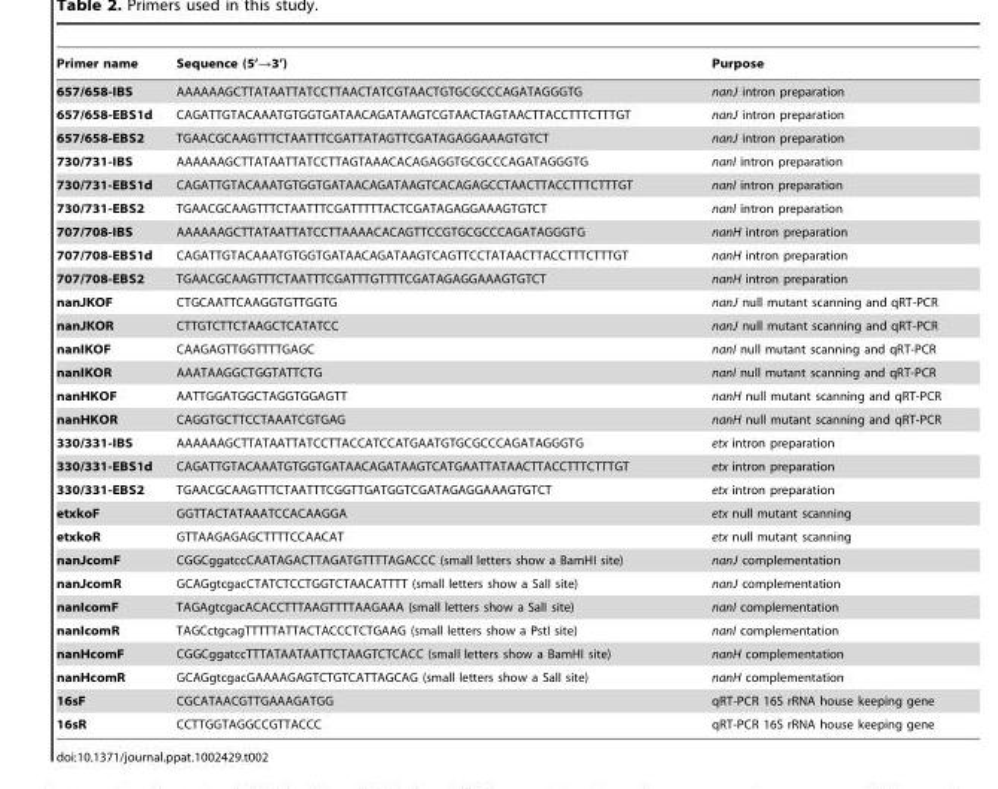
<table><thead><tr><td>Primer name</td><td>Sequence (5’→3’)</td><td>Purpose</td></tr></thead><tbody><tr><td>657/658-IBS</td><td>AAAAAAGCTTATAATTATCCTTAACTATCGTAACTGTGCGCCCAGATAGGGTG</td><td>nanJ intron preparation</td></tr><tr><td>657/658-EBS1d</td><td>CAGATTGTACAAATGTGGTGATAACAGATAAGTCGTAACTAGTAACTTACCTTTCTTTGT</td><td>nanJ intron preparation</td></tr><tr><td>657/658-EBS2</td><td>TGAACGCAAGTTTCTAATTTCGATTATAGTTCGATAGAGGAAAGTGTCT</td><td>nanJ intron preparation</td></tr><tr><td>730/731-IBS</td><td>AAAAAAGCTTATAATTATCCTTAGTAAACACAGAGGTGCGCCCAGATAGGGTG</td><td>nanI intron preparation</td></tr><tr><td>730/731-EBS1d</td><td>CAGATTGTACAAATGTGGTGATAACAGATAAGTCACAGAGCCTAACTTACCTTTCTTTGT</td><td>nanI intron preparation</td></tr><tr><td>730/731-EBS2</td><td>TGAACGCAAGTTTCTAATTTCGATTTTTACTCGATAGAGGAAAGTGTCT</td><td>nanI intron preparation</td></tr><tr><td>707/708-IBS</td><td>AAAAAAGCTTATAATTATCCTTAAAACACAGTTCCGTGCGCCCAGATAGGGTG</td><td>nanH intron preparation</td></tr><tr><td>707/708-EBS1d</td><td>CAGATTGTACAAATGTGGTGATAACAGATAAGTCAGTTCCTATAACTTACCTTTCTTTGT</td><td>nanH intron preparation</td></tr><tr><td>707/708-EBS2</td><td>TGAACGCAAGTTTCTAATTTCGATTTGTTTTCGATAGAGGAAAGTGTCT</td><td>nanH intron preparation</td></tr><tr><td>nanJKOF</td><td>CTGCAATTCAAGGTGTTGGTG</td><td>nanJ null mutant scanning and qRT-PCR</td></tr><tr><td>nanJKOR</td><td>CTTGTCTTCTAAGCTCATATCC</td><td>nanJ null mutant scanning and qRT-PCR</td></tr><tr><td>nanIKOF</td><td>CAAGAGTTGGTTTTGAGC</td><td>nanI null mutant scanning and qRT-PCR</td></tr><tr><td>nanIKOR</td><td>AAATAAGGCTGGTATTCTG</td><td>nanI null mutant scanning and qRT-PCR</td></tr><tr><td>nanHKOF</td><td>AATTGGATGGCTAGGTGGAGTT</td><td>nanH null mutant scanning and qRT-PCR</td></tr><tr><td>nanHKOR</td><td>CAGGTGCTTCCTAAATCGTGAG</td><td>nanH null mutant scanning and qRT-PCR</td></tr><tr><td>330/331-IBS</td><td>AAAAAAGCTTATAATTATCCTTACCATCCATGAATGTGCGCCCAGATAGGGTG</td><td>etx intron preparation</td></tr><tr><td>330/331-EBS1d</td><td>CAGATTGTACAAATGTGGTGATAACAGATAAGTCATGAATTATAACTTACCTTTCTTTGT</td><td>etx intron preparation</td></tr><tr><td>330/331-EBS2</td><td>TGAACGCAAGTTTCTAATTTCGGTTGATGGTCGATAGAGGAAAGTGTCT</td><td>etx intron preparation</td></tr><tr><td>etxkoF</td><td>GGTTACTATAAATCCACAAGGA</td><td>etx null mutant scanning</td></tr><tr><td>etxkoR</td><td>GTTAAGAGAGCTTTTCCAACAT</td><td>etx null mutant scanning</td></tr><tr><td>nanJcomF</td><td>CGGCggatccCAATAGACTTAGATGTTTTAGACCC (small letters show a BamHI site)</td><td>nanJ complementation</td></tr><tr><td>nanJcomR</td><td>GCAGgtcgacCTATCTCCTGGTCTAACATTTT (small letters show a SalI site)</td><td>nanJ complementation</td></tr><tr><td>nanIcomF</td><td>TAGAgtcgacACACCTTTAAGTTTTAAGAAA (small letters show a SalI site)</td><td>nanI complementation</td></tr><tr><td>nanIcomR</td><td>TAGCctgcagTTTTTATTACTACCCTCTGAAG (small letters show a PstI site)</td><td>nanI complementation</td></tr><tr><td>nanHcomF</td><td>CGGCggatccTTTATAATAATTCTAAGTCTCACC (small letters show a BamHI site)</td><td>nanH complementation</td></tr><tr><td>nanHcomR</td><td>GCAGgtcgacGAAAAGAGTCTGTCATTAGCAG (small letters show a SalI site)</td><td>nanH complementation</td></tr><tr><td>16sF</td><td>CGCATAACGTTGAAAGATGG</td><td>qRT-PCR 16S rRNA house keeping gene</td></tr><tr><td>16sR</td><td>CCTTGGTAGGCCGTTACCC</td><td>qRT-PCR 16S rRNA house keeping gene</td></tr></tbody></table>